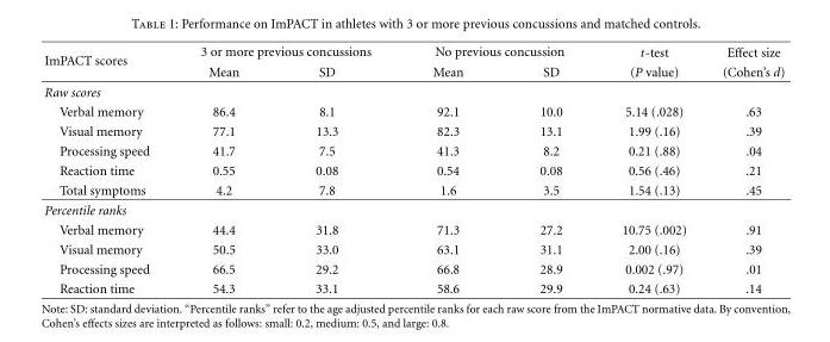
<table><thead><tr><td rowspan="2">ImPACT scores</td><td colspan="2">3 or more previous concussions</td><td colspan="2">No previous concussion</td><td rowspan="2">t-test (P value)</td><td rowspan="2">Effect size (Cohen’s d)</td></tr><tr><td>Mean</td><td>SD</td><td>Mean</td><td>SD</td></tr></thead><tbody><tr><td colspan="7">Raw scores</td></tr><tr><td>Verbal memory</td><td>86.4</td><td>8.1</td><td>92.1</td><td>10.0</td><td>5.14 (.028)</td><td>.63</td></tr><tr><td>Visual memory</td><td>77.1</td><td>13.3</td><td>82.3</td><td>13.1</td><td>1.99 (.16)</td><td>.39</td></tr><tr><td>Processing speed</td><td>41.7</td><td>7.5</td><td>41.3</td><td>8.2</td><td>0.21 (.88)</td><td>.04</td></tr><tr><td>Reaction time</td><td>0.55</td><td>0.08</td><td>0.54</td><td>0.08</td><td>0.56 (.46)</td><td>.21</td></tr><tr><td>Total symptoms</td><td>4.2</td><td>7.8</td><td>1.6</td><td>3.5</td><td>1.54 (.13)</td><td>.45</td></tr><tr><td colspan="7">Percentile ranks</td></tr><tr><td>Verbal memory</td><td>44.4</td><td>31.8</td><td>71.3</td><td>27.2</td><td>10.75 (.002)</td><td>.91</td></tr><tr><td>Visual memory</td><td>50.5</td><td>33.0</td><td>63.1</td><td>31.1</td><td>2.00 (.16)</td><td>.39</td></tr><tr><td>Processing speed</td><td>66.5</td><td>29.2</td><td>66.8</td><td>28.9</td><td>0.002 (.97)</td><td>.01</td></tr><tr><td>Reaction time</td><td>54.3</td><td>33.1</td><td>58.6</td><td>29.9</td><td>0.24 (.63)</td><td>.14</td></tr></tbody></table>